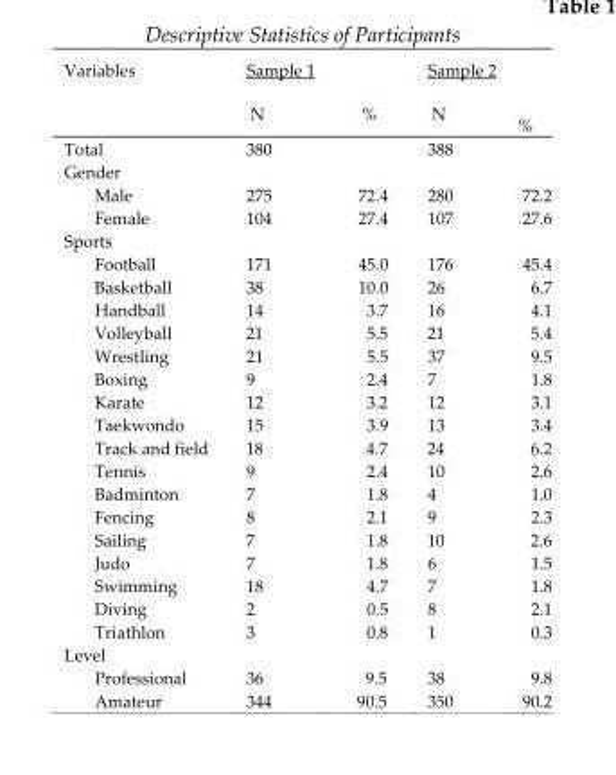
<table><thead><tr><td rowspan="2">Variables</td><td colspan="2">Sample 1</td><td colspan="2">Sample 2</td></tr><tr><td>N</td><td>%</td><td>N</td><td>%</td></tr></thead><tbody><tr><td>Total</td><td>380</td><td></td><td>388</td><td></td></tr><tr><td colspan="5">Gender</td></tr><tr><td>Male</td><td>275</td><td>72.4</td><td>280</td><td>72.2</td></tr><tr><td>Female</td><td>104</td><td>27.4</td><td>107</td><td>27.6</td></tr><tr><td colspan="5">Sports</td></tr><tr><td>Football</td><td>171</td><td>45.0</td><td>176</td><td>45.4</td></tr><tr><td>Basketball</td><td>38</td><td>10.0</td><td>26</td><td>6.7</td></tr><tr><td>Handball</td><td>14</td><td>3.7</td><td>16</td><td>4.1</td></tr><tr><td>Volleyball</td><td>21</td><td>5.5</td><td>21</td><td>5.4</td></tr><tr><td>Wrestling</td><td>21</td><td>5.5</td><td>37</td><td>9.5</td></tr><tr><td>Boxing</td><td>9</td><td>2.4</td><td>7</td><td>1.8</td></tr><tr><td>Karate</td><td>12</td><td>3.2</td><td>12</td><td>3.1</td></tr><tr><td>Taekwondo</td><td>15</td><td>3.9</td><td>13</td><td>3.4</td></tr><tr><td>Track and field</td><td>18</td><td>4.7</td><td>24</td><td>6.2</td></tr><tr><td>Tennis</td><td>9</td><td>2.4</td><td>10</td><td>2.6</td></tr><tr><td>Badminton</td><td>7</td><td>1.8</td><td>4</td><td>1.0</td></tr><tr><td>Fencing</td><td>8</td><td>2.1</td><td>9</td><td>2.3</td></tr><tr><td>Sailing</td><td>7</td><td>1.8</td><td>10</td><td>2.6</td></tr><tr><td>Judo</td><td>7</td><td>1.8</td><td>6</td><td>1.5</td></tr><tr><td>Swimming</td><td>18</td><td>4.7</td><td>7</td><td>1.8</td></tr><tr><td>Diving</td><td>2</td><td>0.5</td><td>8</td><td>2.1</td></tr><tr><td>Triathlon</td><td>3</td><td>0.8</td><td>1</td><td>0.3</td></tr><tr><td colspan="5">Level</td></tr><tr><td>Professional</td><td>36</td><td>9.5</td><td>38</td><td>9.8</td></tr><tr><td>Amateur</td><td>344</td><td>90.5</td><td>350</td><td>90.2</td></tr></tbody></table>